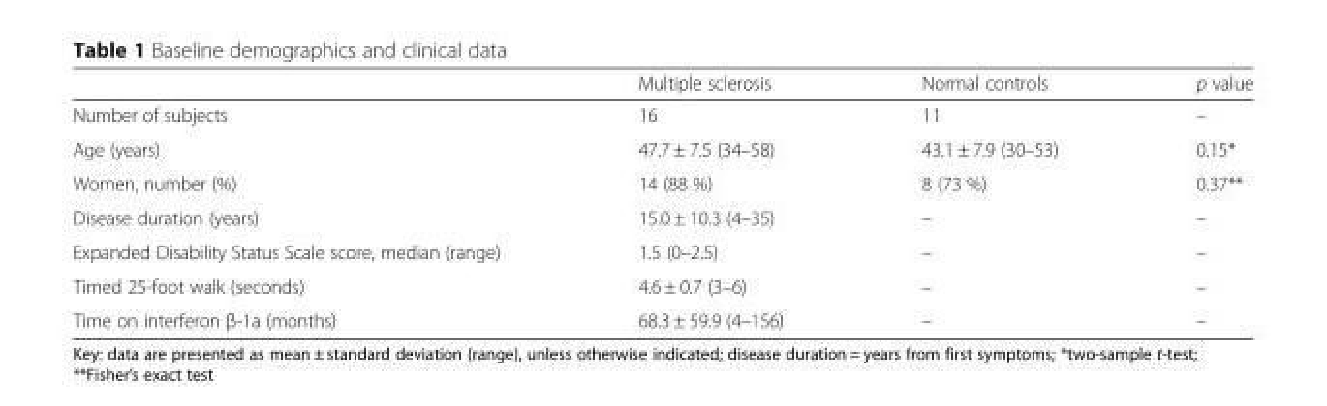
<table><thead><tr><td></td><td>Multiple sclerosis</td><td>Normal controls</td><td>p value</td></tr></thead><tbody><tr><td>Number of subjects</td><td>16</td><td>11</td><td>–</td></tr><tr><td>Age (years)</td><td>47.7 ± 7.5 (34–58)</td><td>43.1 ± 7.9 (30–53)</td><td>0.15*</td></tr><tr><td>Women, number (%)</td><td>14 (88 %)</td><td>8 (73 %)</td><td>0.37**</td></tr><tr><td>Disease duration (years)</td><td>15.0 ± 10.3 (4–35)</td><td>–</td><td>–</td></tr><tr><td>Expanded Disability Status Scale score, median (range)</td><td>1.5 (0–2.5)</td><td>–</td><td>–</td></tr><tr><td>Timed 25-foot walk (seconds)</td><td>4.6 ± 0.7 (3–6)</td><td>–</td><td>–</td></tr><tr><td>Time on interferon β-1a (months)</td><td>68.3 ± 59.9 (4–156)</td><td>–</td><td>–</td></tr></tbody></table>